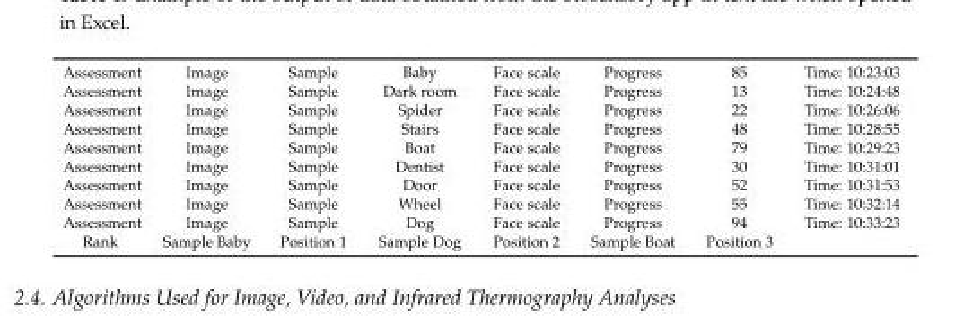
<table><tbody><tr><td>Assessment</td><td>Image</td><td>Sample</td><td>Baby</td><td>Face scale</td><td>Progress</td><td>85</td><td>Time: 10:23:03</td></tr><tr><td>Assessment</td><td>Image</td><td>Sample</td><td>Dark room</td><td>Face scale</td><td>Progress</td><td>13</td><td>Time: 10:24:48</td></tr><tr><td>Assessment</td><td>Image</td><td>Sample</td><td>Spider</td><td>Face scale</td><td>Progress</td><td>22</td><td>Time: 10:26:06</td></tr><tr><td>Assessment</td><td>Image</td><td>Sample</td><td>Stairs</td><td>Face scale</td><td>Progress</td><td>48</td><td>Time: 10:28:55</td></tr><tr><td>Assessment</td><td>Image</td><td>Sample</td><td>Boat</td><td>Face scale</td><td>Progress</td><td>79</td><td>Time: 10:29:23</td></tr><tr><td>Assessment</td><td>Image</td><td>Sample</td><td>Dentist</td><td>Face scale</td><td>Progress</td><td>30</td><td>Time: 10:31:01</td></tr><tr><td>Assessment</td><td>Image</td><td>Sample</td><td>Door</td><td>Face scale</td><td>Progress</td><td>52</td><td>Time: 10:31:53</td></tr><tr><td>Assessment</td><td>Image</td><td>Sample</td><td>Wheel</td><td>Face scale</td><td>Progress</td><td>55</td><td>Time: 10:32:14</td></tr><tr><td>Assessment</td><td>Image</td><td>Sample</td><td>Dog</td><td>Face scale</td><td>Progress</td><td>94</td><td>Time: 10:33:23</td></tr><tr><td>Rank</td><td>Sample Baby</td><td>Position 1</td><td>Sample Dog</td><td>Position 2</td><td>Sample Boat</td><td>Position 3</td><td></td></tr></tbody></table>